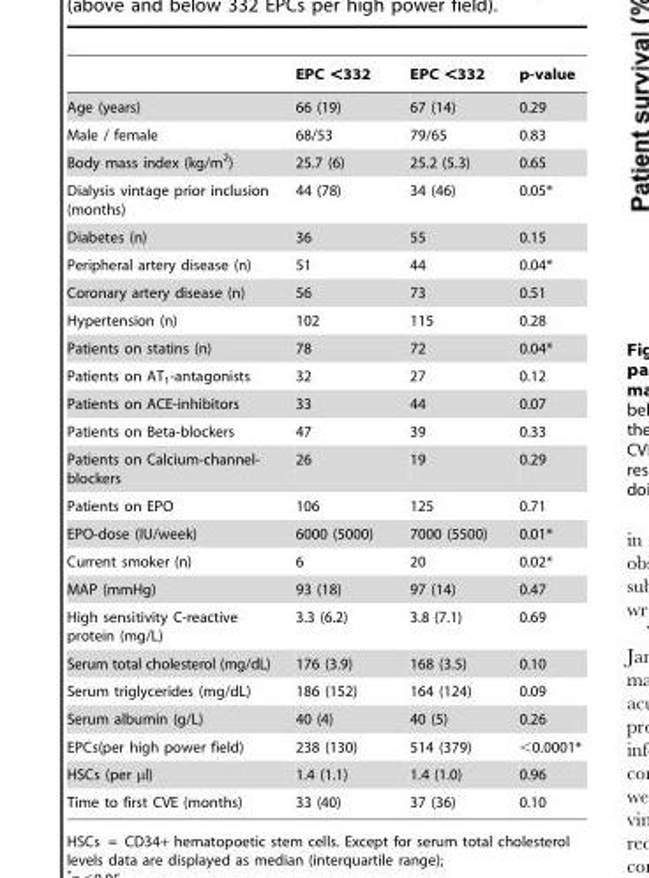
<table><thead><tr><td></td><td>EPC &lt;332</td><td>EPC &lt;332</td><td>p-value</td></tr></thead><tbody><tr><td>Age (years)</td><td>66 (19)</td><td>67 (14)</td><td>0.29</td></tr><tr><td>Male / female</td><td>68/53</td><td>79/65</td><td>0.83</td></tr><tr><td>Body mass index (kg/m<sup>2</sup>)</td><td>25.7 (6)</td><td>25.2 (5.3)</td><td>0.65</td></tr><tr><td>Dialysis vintage prior inclusion (months)</td><td>44 (78)</td><td>34 (46)</td><td>0.05*</td></tr><tr><td>Diabetes (n)</td><td>36</td><td>55</td><td>0.15</td></tr><tr><td>Peripheral artery disease (n)</td><td>51</td><td>44</td><td>0.04*</td></tr><tr><td>Coronary artery disease (n)</td><td>56</td><td>73</td><td>0.51</td></tr><tr><td>Hypertension (n)</td><td>102</td><td>115</td><td>0.28</td></tr><tr><td>Patients on statins (n)</td><td>78</td><td>72</td><td>0.04*</td></tr><tr><td>Patients on AT<sub>1</sub>-antagonists</td><td>32</td><td>27</td><td>0.12</td></tr><tr><td>Patients on ACE-inhibitors</td><td>33</td><td>44</td><td>0.07</td></tr><tr><td>Patients on Beta-blockers</td><td>47</td><td>39</td><td>0.33</td></tr><tr><td>Patients on Calcium-channel- blockers</td><td>26</td><td>19</td><td>0.29</td></tr><tr><td>Patients on EPO</td><td>106</td><td>125</td><td>0.71</td></tr><tr><td>EPO-dose (IU/week)</td><td>6000 (5000)</td><td>7000 (5500)</td><td>0.01*</td></tr><tr><td>Current smoker (n)</td><td>6</td><td>20</td><td>0.02*</td></tr><tr><td>MAP (mmHg)</td><td>93 (18)</td><td>97 (14)</td><td>0.47</td></tr><tr><td>High sensitivity C-reactive protein (mg/L)</td><td>3.3 (6.2)</td><td>3.8 (7.1)</td><td>0.69</td></tr><tr><td>Serum total cholesterol (mg/dL)</td><td>176 (3.9)</td><td>168 (3.5)</td><td>0.10</td></tr><tr><td>Serum triglycerides (mg/dL)</td><td>186 (152)</td><td>164 (124)</td><td>0.09</td></tr><tr><td>Serum albumin (g/L)</td><td>40 (4)</td><td>40 (5)</td><td>0.26</td></tr><tr><td>EPCs(per high power field)</td><td>238 (130)</td><td>514 (379)</td><td>&lt;0.0001*</td></tr><tr><td>HSCs (per μl)</td><td>1.4 (1.1)</td><td>1.4 (1.0)</td><td>0.96</td></tr><tr><td>Time to first CVE (months)</td><td>33 (40)</td><td>37 (36)</td><td>0.10</td></tr></tbody></table>